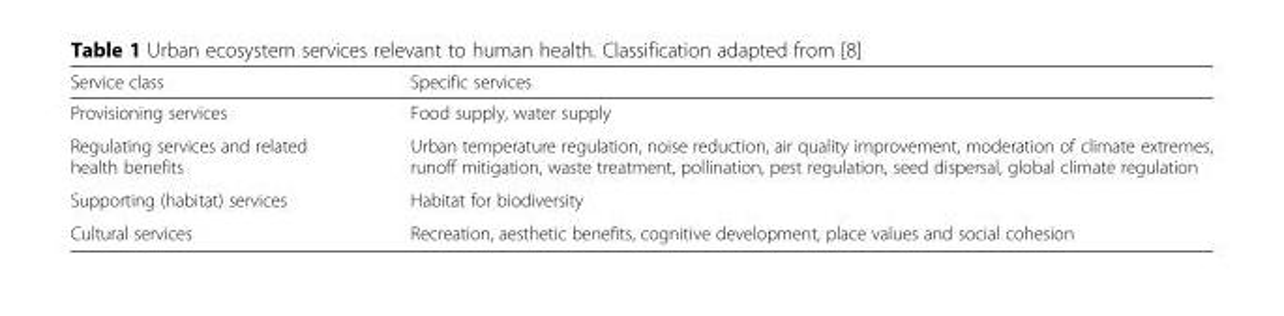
<table><thead><tr><td>Service class</td><td>Specific services</td></tr></thead><tbody><tr><td>Provisioning services</td><td>Food supply, water supply</td></tr><tr><td>Regulating services and related health benefits</td><td>Urban temperature regulation, noise reduction, air quality improvement, moderation of climate extremes, runoff mitigation, waste treatment, pollination, pest regulation, seed dispersal, global climate regulation</td></tr><tr><td>Supporting (habitat) services</td><td>Habitat for biodiversity</td></tr><tr><td>Cultural services</td><td>Recreation, aesthetic benefits, cognitive development, place values and social cohesion</td></tr></tbody></table>